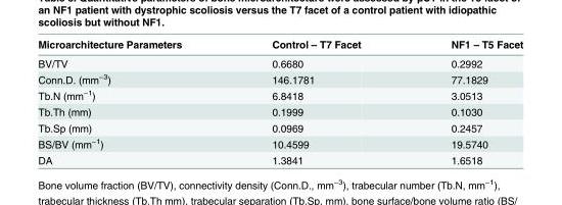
<table><thead><tr><td>Microarchitecture Parameters</td><td>Control – T7 Facet</td><td>NF1 – T5 Facet</td></tr></thead><tbody><tr><td>BV/TV</td><td>0.6680</td><td>0.2992</td></tr><tr><td>Conn.D. (mm<sup>−3</sup>)</td><td>146.1781</td><td>77.1829</td></tr><tr><td>Tb.N (mm<sup>−1</sup>)</td><td>6.8418</td><td>3.0513</td></tr><tr><td>Tb.Th (mm)</td><td>0.1999</td><td>0.1030</td></tr><tr><td>Tb.Sp (mm)</td><td>0.0969</td><td>0.2457</td></tr><tr><td>BS/BV (mm<sup>−1</sup>)</td><td>10.4599</td><td>19.5740</td></tr><tr><td>DA</td><td>1.3841</td><td>1.6518</td></tr></tbody></table>